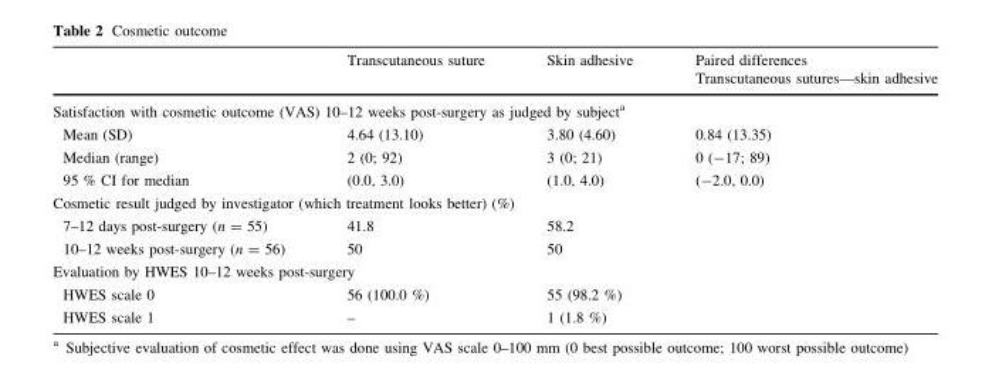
<table><thead><tr><td></td><td>Transcutaneous suture</td><td>Skin adhesive</td><td>Paired differences Transcutaneous sutures—skin adhesive</td></tr></thead><tbody><tr><td colspan="4">Satisfaction with cosmetic outcome (VAS) 10–12 weeks post-surgery as judged by subject<sup>a</sup></td></tr><tr><td>Mean (SD)</td><td>4.64 (13.10)</td><td>3.80 (4.60)</td><td>0.84 (13.35)</td></tr><tr><td>Median (range)</td><td>2 (0; 92)</td><td>3 (0; 21)</td><td>0 (-17; 89)</td></tr><tr><td>95 % CI for median</td><td>(0.0, 3.0)</td><td>(1.0, 4.0)</td><td>(-2.0, 0.0)</td></tr><tr><td colspan="4">Cosmetic result judged by investigator (which treatment looks better) (%)</td></tr><tr><td>7–12 days post-surgery (n = 55)</td><td>41.8</td><td>58.2</td><td></td></tr><tr><td>10–12 weeks post-surgery (n = 56)</td><td>50</td><td>50</td><td></td></tr><tr><td colspan="4">Evaluation by HWES 10–12 weeks post-surgery</td></tr><tr><td>HWES scale 0</td><td>56 (100.0 %)</td><td>55 (98.2 %)</td><td></td></tr><tr><td>HWES scale 1</td><td>–</td><td>1 (1.8 %)</td><td></td></tr></tbody></table>